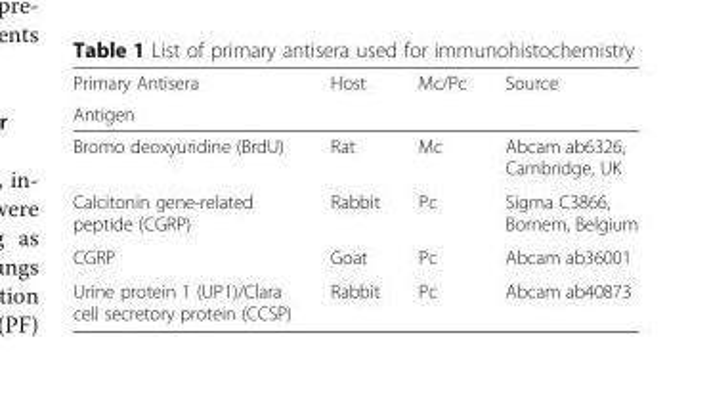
<table><thead><tr><td rowspan="2">Primary Antisera Antigen</td><td rowspan="2">Host</td><td rowspan="2">Mc/Pc</td><td rowspan="2">Source</td></tr><tr></tr></thead><tbody><tr><td>Bromo deoxyuridine (BrdU)</td><td>Rat</td><td>Mc</td><td>Abcam ab6326, Cambridge, UK</td></tr><tr><td>Calcitonin gene-related peptide (CGRP)</td><td>Rabbit</td><td>Pc</td><td>Sigma C3866, Bornem, Belgium</td></tr><tr><td>CGRP</td><td>Goat</td><td>Pc</td><td>Abcam ab36001</td></tr><tr><td>Urine protein 1 (UP1)/Clara cell secretory protein (CCSP)</td><td>Rabbit</td><td>Pc</td><td>Abcam ab40873</td></tr></tbody></table>